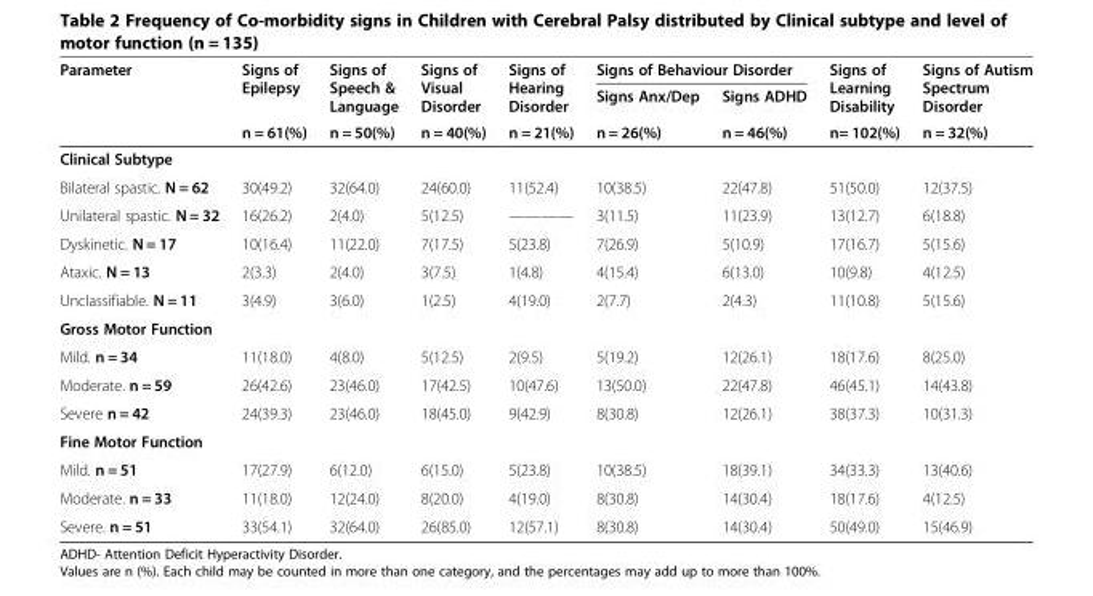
<table><thead><tr><td rowspan="3">Parameter</td><td rowspan="3">Signs of Epilepsy n = 61(%)</td><td rowspan="3">Signs of Speech &amp; Language n = 50(%)</td><td rowspan="3">Signs of Visual Disorder n = 40(%)</td><td rowspan="3">Signs of Hearing Disorder n = 21(%)</td><td colspan="2">Signs of Behaviour Disorder</td><td rowspan="3">Signs of Learning Disability n= 102(%)</td><td rowspan="3">Signs of Autism Spectrum Disorder n = 32(%)</td></tr><tr><td rowspan="2">Signs Anx/Dep n = 26(%)</td><td rowspan="2">Signs ADHD n = 46(%)</td></tr><tr></tr></thead><tbody><tr><td colspan="9">Clinical Subtype</td></tr><tr><td>Bilateral spastic. N = 62</td><td>30(49.2)</td><td>32(64.0)</td><td>24(60.0)</td><td>11(52.4)</td><td>10(38.5)</td><td>22(47.8)</td><td>51(50.0)</td><td>12(37.5)</td></tr><tr><td>Unilateral spastic. N = 32</td><td>16(26.2)</td><td>2(4.0)</td><td>5(12.5)</td><td>————</td><td>3(11.5)</td><td>11(23.9)</td><td>13(12.7)</td><td>6(18.8)</td></tr><tr><td>Dyskinetic. N = 17</td><td>10(16.4)</td><td>11(22.0)</td><td>7(17.5)</td><td>5(23.8)</td><td>7(26.9)</td><td>5(10.9)</td><td>17(16.7)</td><td>5(15.6)</td></tr><tr><td>Ataxic. N = 13</td><td>2(3.3)</td><td>2(4.0)</td><td>3(7.5)</td><td>1(4.8)</td><td>4(15.4)</td><td>6(13.0)</td><td>10(9.8)</td><td>4(12.5)</td></tr><tr><td>Unclassifiable. N = 11</td><td>3(4.9)</td><td>3(6.0)</td><td>1(2.5)</td><td>4(19.0)</td><td>2(7.7)</td><td>2(4.3)</td><td>11(10.8)</td><td>5(15.6)</td></tr><tr><td colspan="9">Gross Motor Function</td></tr><tr><td>Mild. n = 34</td><td>11(18.0)</td><td>4(8.0)</td><td>5(12.5)</td><td>2(9.5)</td><td>5(19.2)</td><td>12(26.1)</td><td>18(17.6)</td><td>8(25.0)</td></tr><tr><td>Moderate. n = 59</td><td>26(42.6)</td><td>23(46.0)</td><td>17(42.5)</td><td>10(47.6)</td><td>13(50.0)</td><td>22(47.8)</td><td>46(45.1)</td><td>14(43.8)</td></tr><tr><td>Severe n = 42</td><td>24(39.3)</td><td>23(46.0)</td><td>18(45.0)</td><td>9(42.9)</td><td>8(30.8)</td><td>12(26.1)</td><td>38(37.3)</td><td>10(31.3)</td></tr><tr><td colspan="9">Fine Motor Function</td></tr><tr><td>Mild. n = 51</td><td>17(27.9)</td><td>6(12.0)</td><td>6(15.0)</td><td>5(23.8)</td><td>10(38.5)</td><td>18(39.1)</td><td>34(33.3)</td><td>13(40.6)</td></tr><tr><td>Moderate. n = 33</td><td>11(18.0)</td><td>12(24.0)</td><td>8(20.0)</td><td>4(19.0)</td><td>8(30.8)</td><td>14(30.4)</td><td>18(17.6)</td><td>4(12.5)</td></tr><tr><td>Severe. n = 51</td><td>33(54.1)</td><td>32(64.0)</td><td>26(85.0)</td><td>12(57.1)</td><td>8(30.8)</td><td>14(30.4)</td><td>50(49.0)</td><td>15(46.9)</td></tr></tbody></table>